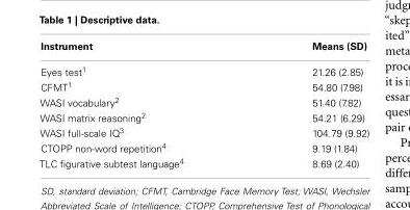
<table><thead><tr><td>Instrument</td><td>Means (SD)</td></tr></thead><tbody><tr><td>Eyes test<sup>1</sup></td><td>21.26 (2.85)</td></tr><tr><td>CFMT<sup>1</sup></td><td>54.80 (7.98)</td></tr><tr><td>WASI vocabulary<sup>2</sup></td><td>51.40 (7.82)</td></tr><tr><td>WASI matrix reasoning<sup>2</sup></td><td>54.21 (6.29)</td></tr><tr><td>WASI full-scale IQ<sup>3</sup></td><td>104.79 (9.92)</td></tr><tr><td>CTOPP non-word repetition<sup>4</sup></td><td>9.19 (1.84)</td></tr><tr><td>TLC figurative subtest language<sup>4</sup></td><td>8.69 (2.40)</td></tr></tbody></table>